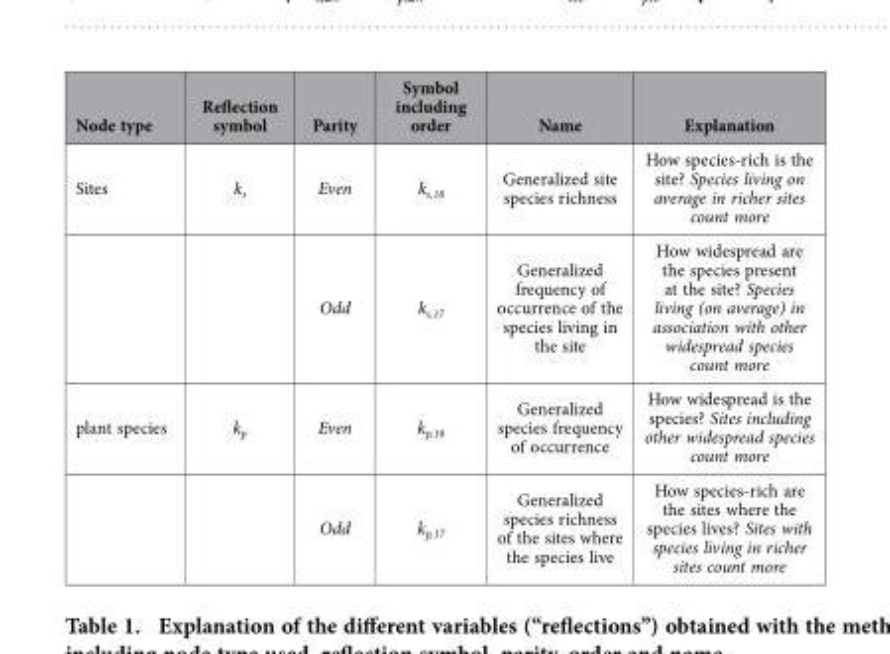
<table><thead><tr><td>Node type</td><td>Reflection symbol</td><td>Parity</td><td>Symbol including order</td><td>Name</td><td>Explanation</td></tr></thead><tbody><tr><td rowspan="2">Sites</td><td>k<sub>s</sub></td><td>Even</td><td>k<sub>s,18</sub></td><td>Generalized site species richness</td><td>How species-rich is the site? Species living on average in richer sites count more</td></tr><tr><td></td><td>Odd</td><td>k<sub>s,17</sub></td><td>Generalized frequency of occurrence of the species living in the site</td><td>How widespread are the species present at the site? Species living (on average) in association with other widespread species count more</td></tr><tr><td rowspan="2">plant species</td><td>k<sub>p</sub></td><td>Even</td><td>k<sub>p,18</sub></td><td>Generalized species frequency of occurrence</td><td>How widespread is the species? Sites including other widespread species count more</td></tr><tr><td></td><td>Odd</td><td>k<sub>p,17</sub></td><td>Generalized species richness of the sites where the species live</td><td>How species-rich are the sites where the species lives? Sites with species living in richer sites count more</td></tr></tbody></table>